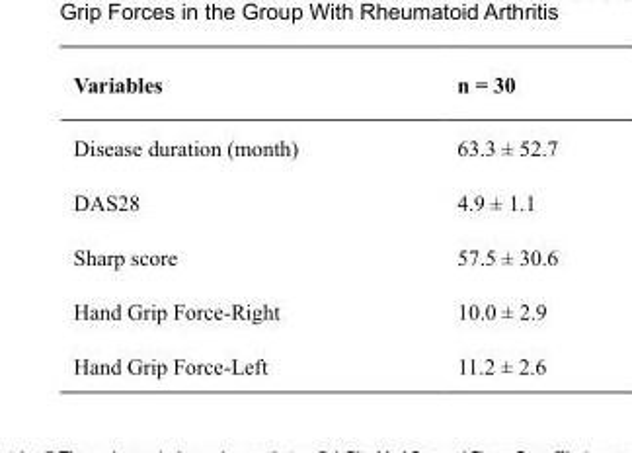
<table><thead><tr><td>Variables</td><td>n = 30</td></tr></thead><tbody><tr><td>Disease duration (month)</td><td>63.3 ± 52.7</td></tr><tr><td>DAS28</td><td>4.9 ± 1.1</td></tr><tr><td>Sharp score</td><td>57.5 ± 30.6</td></tr><tr><td>Hand Grip Force-Right</td><td>10.0 ± 2.9</td></tr><tr><td>Hand Grip Force-Left</td><td>11.2 ± 2.6</td></tr></tbody></table>